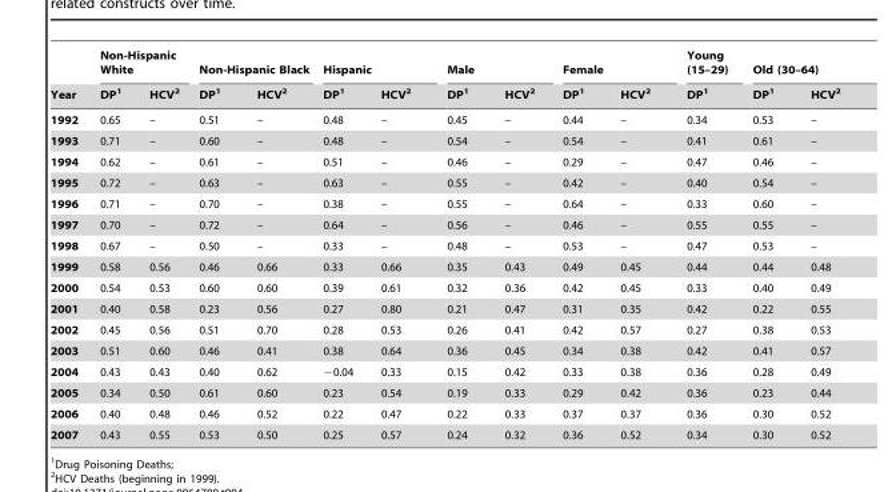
<table><thead><tr><td rowspan="2">Year</td><td colspan="2">Non-Hispanic White</td><td colspan="2">Non-Hispanic Black</td><td colspan="2">Hispanic</td><td colspan="2">Male</td><td colspan="2">Female</td><td rowspan="2">Young (15–29) DP<sup>1</sup></td><td colspan="2">Old (30–64)</td></tr><tr><td>DP<sup>1</sup></td><td>HCV<sup>2</sup></td><td>DP<sup>1</sup></td><td>HCV<sup>2</sup></td><td>DP<sup>1</sup></td><td>HCV<sup>2</sup></td><td>DP<sup>1</sup></td><td>HCV<sup>2</sup></td><td>DP<sup>1</sup></td><td>HCV<sup>2</sup></td><td>DP<sup>1</sup></td><td>HCV<sup>2</sup></td></tr></thead><tbody><tr><td>1992</td><td>0.65</td><td>–</td><td>0.51</td><td>–</td><td>0.48</td><td>–</td><td>0.45</td><td>–</td><td>0.44</td><td>–</td><td>0.34</td><td>0.53</td><td>–</td></tr><tr><td>1993</td><td>0.71</td><td>–</td><td>0.60</td><td>–</td><td>0.48</td><td>–</td><td>0.54</td><td>–</td><td>0.54</td><td>–</td><td>0.41</td><td>0.61</td><td>–</td></tr><tr><td>1994</td><td>0.62</td><td>–</td><td>0.61</td><td>–</td><td>0.51</td><td>–</td><td>0.46</td><td>–</td><td>0.29</td><td>–</td><td>0.47</td><td>0.46</td><td>–</td></tr><tr><td>1995</td><td>0.72</td><td>–</td><td>0.63</td><td>–</td><td>0.63</td><td>–</td><td>0.55</td><td>–</td><td>0.42</td><td>–</td><td>0.40</td><td>0.54</td><td>–</td></tr><tr><td>1996</td><td>0.71</td><td>–</td><td>0.70</td><td>–</td><td>0.38</td><td>–</td><td>0.55</td><td>–</td><td>0.64</td><td>–</td><td>0.33</td><td>0.60</td><td>–</td></tr><tr><td>1997</td><td>0.70</td><td>–</td><td>0.72</td><td>–</td><td>0.64</td><td>–</td><td>0.56</td><td>–</td><td>0.46</td><td>–</td><td>0.55</td><td>0.55</td><td>–</td></tr><tr><td>1998</td><td>0.67</td><td>–</td><td>0.50</td><td>–</td><td>0.33</td><td>–</td><td>0.48</td><td>–</td><td>0.53</td><td>–</td><td>0.47</td><td>0.53</td><td>–</td></tr><tr><td>1999</td><td>0.58</td><td>0.56</td><td>0.46</td><td>0.66</td><td>0.33</td><td>0.66</td><td>0.35</td><td>0.43</td><td>0.49</td><td>0.45</td><td>0.44</td><td>0.44</td><td>0.48</td></tr><tr><td>2000</td><td>0.54</td><td>0.53</td><td>0.60</td><td>0.60</td><td>0.39</td><td>0.61</td><td>0.32</td><td>0.36</td><td>0.42</td><td>0.45</td><td>0.33</td><td>0.40</td><td>0.49</td></tr><tr><td>2001</td><td>0.40</td><td>0.58</td><td>0.23</td><td>0.56</td><td>0.27</td><td>0.80</td><td>0.21</td><td>0.47</td><td>0.31</td><td>0.35</td><td>0.42</td><td>0.22</td><td>0.55</td></tr><tr><td>2002</td><td>0.45</td><td>0.56</td><td>0.51</td><td>0.70</td><td>0.28</td><td>0.53</td><td>0.26</td><td>0.41</td><td>0.42</td><td>0.57</td><td>0.27</td><td>0.38</td><td>0.53</td></tr><tr><td>2003</td><td>0.51</td><td>0.60</td><td>0.46</td><td>0.41</td><td>0.38</td><td>0.64</td><td>0.36</td><td>0.45</td><td>0.34</td><td>0.38</td><td>0.42</td><td>0.41</td><td>0.57</td></tr><tr><td>2004</td><td>0.43</td><td>0.43</td><td>0.40</td><td>0.62</td><td>−0.04</td><td>0.33</td><td>0.15</td><td>0.42</td><td>0.33</td><td>0.38</td><td>0.36</td><td>0.28</td><td>0.49</td></tr><tr><td>2005</td><td>0.34</td><td>0.50</td><td>0.61</td><td>0.60</td><td>0.23</td><td>0.54</td><td>0.19</td><td>0.33</td><td>0.29</td><td>0.42</td><td>0.36</td><td>0.23</td><td>0.44</td></tr><tr><td>2006</td><td>0.40</td><td>0.48</td><td>0.46</td><td>0.52</td><td>0.22</td><td>0.47</td><td>0.22</td><td>0.33</td><td>0.37</td><td>0.37</td><td>0.36</td><td>0.30</td><td>0.52</td></tr><tr><td>2007</td><td>0.43</td><td>0.55</td><td>0.53</td><td>0.50</td><td>0.25</td><td>0.57</td><td>0.24</td><td>0.32</td><td>0.36</td><td>0.52</td><td>0.34</td><td>0.30</td><td>0.52</td></tr></tbody></table>